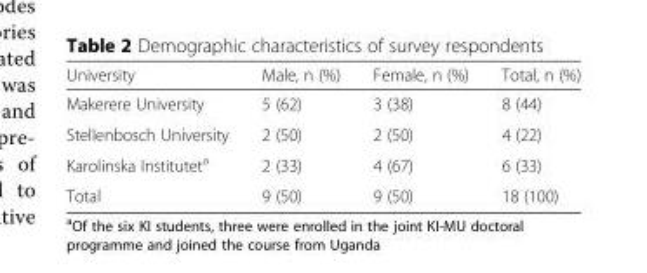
<table><thead><tr><td>University</td><td>Male, n (%)</td><td>Female, n (%)</td><td>Total, n (%)</td></tr></thead><tbody><tr><td>Makerere University</td><td>5 (62)</td><td>3 (38)</td><td>8 (44)</td></tr><tr><td>Stellenbosch University</td><td>2 (50)</td><td>2 (50)</td><td>4 (22)</td></tr><tr><td>Karolinska Institutet<sup>a</sup></td><td>2 (33)</td><td>4 (67)</td><td>6 (33)</td></tr><tr><td>Total</td><td>9 (50)</td><td>9 (50)</td><td>18 (100)</td></tr></tbody></table>